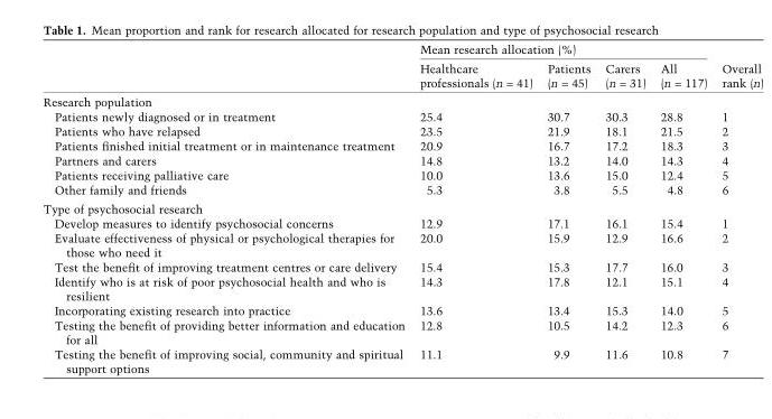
<table><thead><tr><td rowspan="2"></td><td colspan="4">Mean research allocation (%)</td><td rowspan="2"></td></tr><tr><td>Healthcare professionals (n = 41)</td><td>Patients (n = 45)</td><td>Carers (n = 31)</td><td>All (n = 117)</td></tr></thead><tbody><tr><td colspan="6">Research population</td></tr><tr><td>Patients newly diagnosed or in treatment</td><td>25.4</td><td>30.7</td><td>30.3</td><td>28.8</td><td>1</td></tr><tr><td>Patients who have relapsed</td><td>23.5</td><td>21.9</td><td>18.1</td><td>21.5</td><td>2</td></tr><tr><td>Patients finished initial treatment or in maintenance treatment</td><td>20.9</td><td>16.7</td><td>17.2</td><td>18.3</td><td>3</td></tr><tr><td>Partners and carers</td><td>14.8</td><td>13.2</td><td>14.0</td><td>14.3</td><td>4</td></tr><tr><td>Patients receiving palliative care</td><td>10.0</td><td>13.6</td><td>15.0</td><td>12.4</td><td>5</td></tr><tr><td>Other family and friends</td><td>5.3</td><td>3.8</td><td>5.5</td><td>4.8</td><td>6</td></tr><tr><td colspan="6">Type of psychosocial research</td></tr><tr><td>Develop measures to identify psychosocial concerns</td><td>12.9</td><td>17.1</td><td>16.1</td><td>15.4</td><td>1</td></tr><tr><td>Evaluate effectiveness of physical or psychological therapies for those who need it</td><td>20.0</td><td>15.9</td><td>12.9</td><td>16.6</td><td>2</td></tr><tr><td>Test the benefit of improving treatment centres or care delivery</td><td>15.4</td><td>15.3</td><td>17.7</td><td>16.0</td><td>3</td></tr><tr><td>Identify who is at risk of poor psychosocial health and who is resilient</td><td>14.3</td><td>17.8</td><td>12.1</td><td>15.1</td><td>4</td></tr><tr><td>Incorporating existing research into practice</td><td>13.6</td><td>13.4</td><td>15.3</td><td>14.0</td><td>5</td></tr><tr><td>Testing the benefit of providing better information and education for all</td><td>12.8</td><td>10.5</td><td>14.2</td><td>12.3</td><td>6</td></tr><tr><td>Testing the benefit of improving social, community and spiritual support options</td><td>11.1</td><td>9.9</td><td>11.6</td><td>10.8</td><td>7</td></tr></tbody></table>